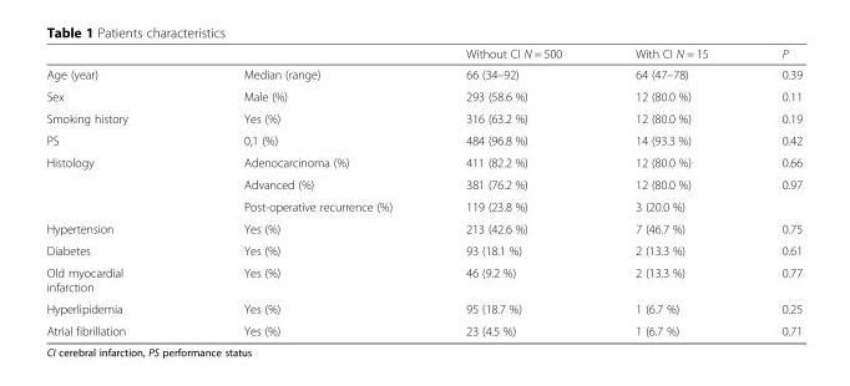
<table><thead><tr><td></td><td></td><td>Without CI N = 500</td><td>With CI N = 15</td><td>P</td></tr></thead><tbody><tr><td>Age (year)</td><td>Median (range)</td><td>66 (34–92)</td><td>64 (47–78)</td><td>0.39</td></tr><tr><td>Sex</td><td>Male (%)</td><td>293 (58.6 %)</td><td>12 (80.0 %)</td><td>0.11</td></tr><tr><td>Smoking history</td><td>Yes (%)</td><td>316 (63.2 %)</td><td>12 (80.0 %)</td><td>0.19</td></tr><tr><td>PS</td><td>0,1 (%)</td><td>484 (96.8 %)</td><td>14 (93.3 %)</td><td>0.42</td></tr><tr><td rowspan="3">Histology</td><td>Adenocarcinoma (%)</td><td>411 (82.2 %)</td><td>12 (80.0 %)</td><td>0.66</td></tr><tr><td>Advanced (%)</td><td>381 (76.2 %)</td><td>12 (80.0 %)</td><td rowspan="2">0.97</td></tr><tr><td>Post-operative recurrence (%)</td><td>119 (23.8 %)</td><td>3 (20.0 %)</td></tr><tr><td>Hypertension</td><td>Yes (%)</td><td>213 (42.6 %)</td><td>7 (46.7 %)</td><td>0.75</td></tr><tr><td>Diabetes</td><td>Yes (%)</td><td>93 (18.1 %)</td><td>2 (13.3 %)</td><td>0.61</td></tr><tr><td>Old myocardial infarction</td><td>Yes (%)</td><td>46 (9.2 %)</td><td>2 (13.3 %)</td><td>0.77</td></tr><tr><td>Hyperlipidemia</td><td>Yes (%)</td><td>95 (18.7 %)</td><td>1 (6.7 %)</td><td>0.25</td></tr><tr><td>Atrial fibrillation</td><td>Yes (%)</td><td>23 (4.5 %)</td><td>1 (6.7 %)</td><td>0.71</td></tr></tbody></table>